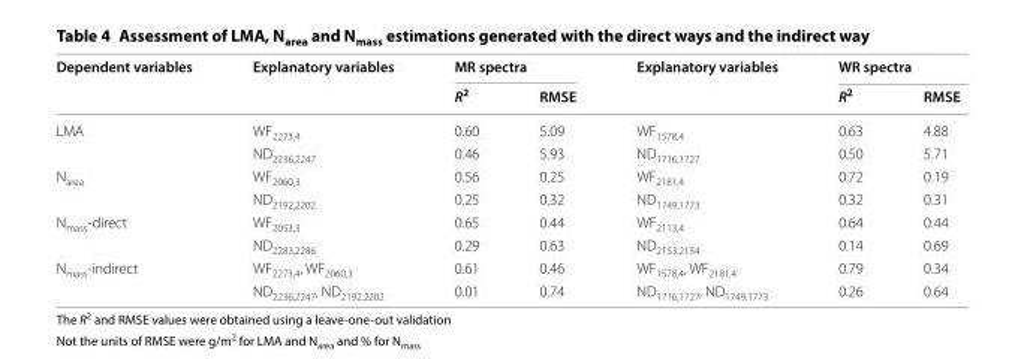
<table><thead><tr><td rowspan="2">Dependent variables</td><td rowspan="2">Explanatory variables</td><td colspan="2">MR spectra</td><td rowspan="2">Explanatory variables</td><td colspan="2">WR spectra</td></tr><tr><td>R<sup>2</sup></td><td>RMSE</td><td>R<sup>2</sup></td><td>RMSE</td></tr></thead><tbody><tr><td rowspan="2">LMA</td><td>WF<sub>2273,4</sub></td><td>0.60</td><td>5.09</td><td>WF<sub>1578,4</sub></td><td>0.63</td><td>4.88</td></tr><tr><td>ND<sub>2236,2247</sub></td><td>0.46</td><td>5.93</td><td>ND<sub>1716,1727</sub></td><td>0.50</td><td>5.71</td></tr><tr><td rowspan="2">N<sub>area</sub></td><td>WF<sub>2060,3</sub></td><td>0.56</td><td>0.25</td><td>WF<sub>2181,4</sub></td><td>0.72</td><td>0.19</td></tr><tr><td>ND<sub>2192,2202</sub></td><td>0.25</td><td>0.32</td><td>ND<sub>1749,1773</sub></td><td>0.32</td><td>0.31</td></tr><tr><td rowspan="2">N<sub>mass</sub>-direct</td><td>WF<sub>2053,3</sub></td><td>0.65</td><td>0.44</td><td>WF<sub>2113,4</sub></td><td>0.64</td><td>0.44</td></tr><tr><td>ND<sub>2283,2286</sub></td><td>0.29</td><td>0.63</td><td>ND<sub>2153,2154</sub></td><td>0.14</td><td>0.69</td></tr><tr><td rowspan="2">N<sub>mass</sub>-indirect</td><td>WF<sub>2273,4</sub>, WF<sub>2060,3</sub></td><td>0.61</td><td>0.46</td><td>WF<sub>1578,4</sub>, WF<sub>2181,4</sub></td><td>0.79</td><td>0.34</td></tr><tr><td>ND<sub>2236,2247</sub>, ND<sub>2192,2202</sub></td><td>0.01</td><td>0.74</td><td>ND<sub>1716,1727</sub>, ND<sub>1749,1773</sub></td><td>0.26</td><td>0.64</td></tr></tbody></table>